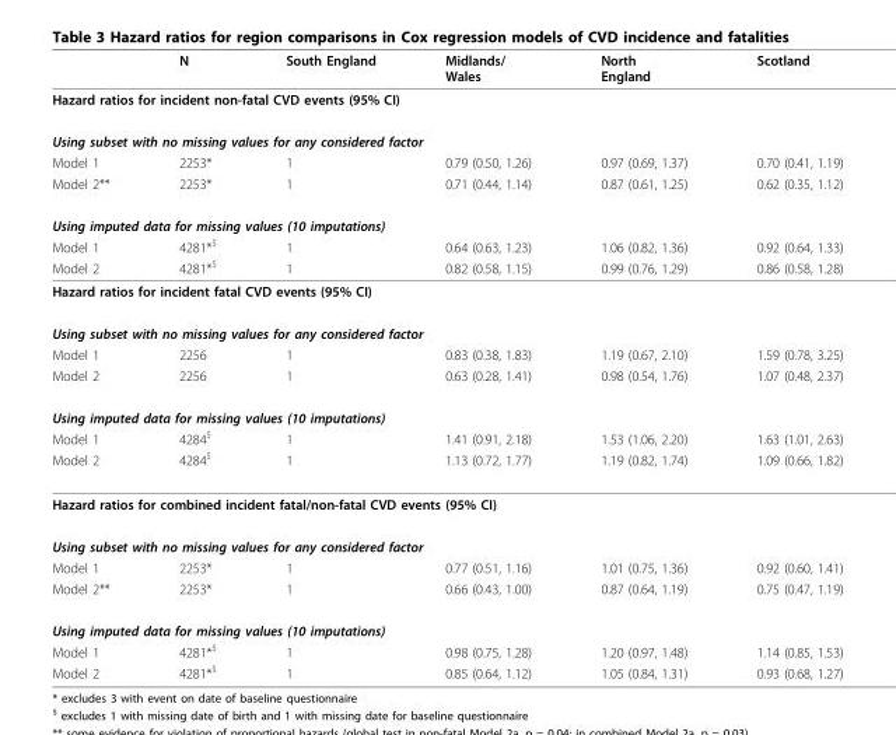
<table><thead><tr><td></td><td>N</td><td>South England</td><td>Midlands/ Wales</td><td>North England</td><td>Scotland</td></tr></thead><tbody><tr><td colspan="6">Hazard ratios for incident non-fatal CVD events (95% CI)</td></tr><tr><td colspan="6">Using subset with no missing values for any considered factor</td></tr><tr><td>Model 1</td><td>2253*</td><td>1</td><td>0.79 (0.50, 1.26)</td><td>0.97 (0.69, 1.37)</td><td>0.70 (0.41, 1.19)</td></tr><tr><td>Model 2**</td><td>2253*</td><td>1</td><td>0.71 (0.44, 1.14)</td><td>0.87 (0.61, 1.25)</td><td>0.62 (0.35, 1.12)</td></tr><tr><td colspan="6">Using imputed data for missing values (10 imputations)</td></tr><tr><td>Model 1</td><td>4281*<sup>$</sup></td><td>1</td><td>0.64 (0.63, 1.23)</td><td>1.06 (0.82, 1.36)</td><td>0.92 (0.64, 1.33)</td></tr><tr><td>Model 2</td><td>4281*<sup>$</sup></td><td>1</td><td>0.82 (0.58, 1.15)</td><td>0.99 (0.76, 1.29)</td><td>0.86 (0.58, 1.28)</td></tr><tr><td colspan="6">Hazard ratios for incident fatal CVD events (95% CI)</td></tr><tr><td colspan="6">Using subset with no missing values for any considered factor</td></tr><tr><td>Model 1</td><td>2256</td><td>1</td><td>0.83 (0.38, 1.83)</td><td>1.19 (0.67, 2.10)</td><td>1.59 (0.78, 3.25)</td></tr><tr><td>Model 2</td><td>2256</td><td>1</td><td>0.63 (0.28, 1.41)</td><td>0.98 (0.54, 1.76)</td><td>1.07 (0.48, 2.37)</td></tr><tr><td colspan="6">Using imputed data for missing values (10 imputations)</td></tr><tr><td>Model 1</td><td>4284<sup>$</sup></td><td>1</td><td>1.41 (0.91, 2.18)</td><td>1.53 (1.06, 2.20)</td><td>1.63 (1.01, 2.63)</td></tr><tr><td>Model 2</td><td>4284<sup>$</sup></td><td>1</td><td>1.13 (0.72, 1.77)</td><td>1.19 (0.82, 1.74)</td><td>1.09 (0.66, 1.82)</td></tr><tr><td colspan="6">Hazard ratios for combined incident fatal/non-fatal CVD events (95% CI)</td></tr><tr><td colspan="6">Using subset with no missing values for any considered factor</td></tr><tr><td>Model 1</td><td>2253*</td><td>1</td><td>0.77 (0.51, 1.16)</td><td>1.01 (0.75, 1.36)</td><td>0.92 (0.60, 1.41)</td></tr><tr><td>Model 2**</td><td>2253*</td><td>1</td><td>0.66 (0.43, 1.00)</td><td>0.87 (0.64, 1.19)</td><td>0.75 (0.47, 1.19)</td></tr><tr><td colspan="6">Using imputed data for missing values (10 imputations)</td></tr><tr><td>Model 1</td><td>4281*<sup>$</sup></td><td>1</td><td>0.98 (0.75, 1.28)</td><td>1.20 (0.97, 1.48)</td><td>1.14 (0.85, 1.53)</td></tr><tr><td>Model 2</td><td>4281*<sup>$</sup></td><td>1</td><td>0.85 (0.64, 1.12)</td><td>1.05 (0.84, 1.31)</td><td>0.93 (0.68, 1.27)</td></tr></tbody></table>